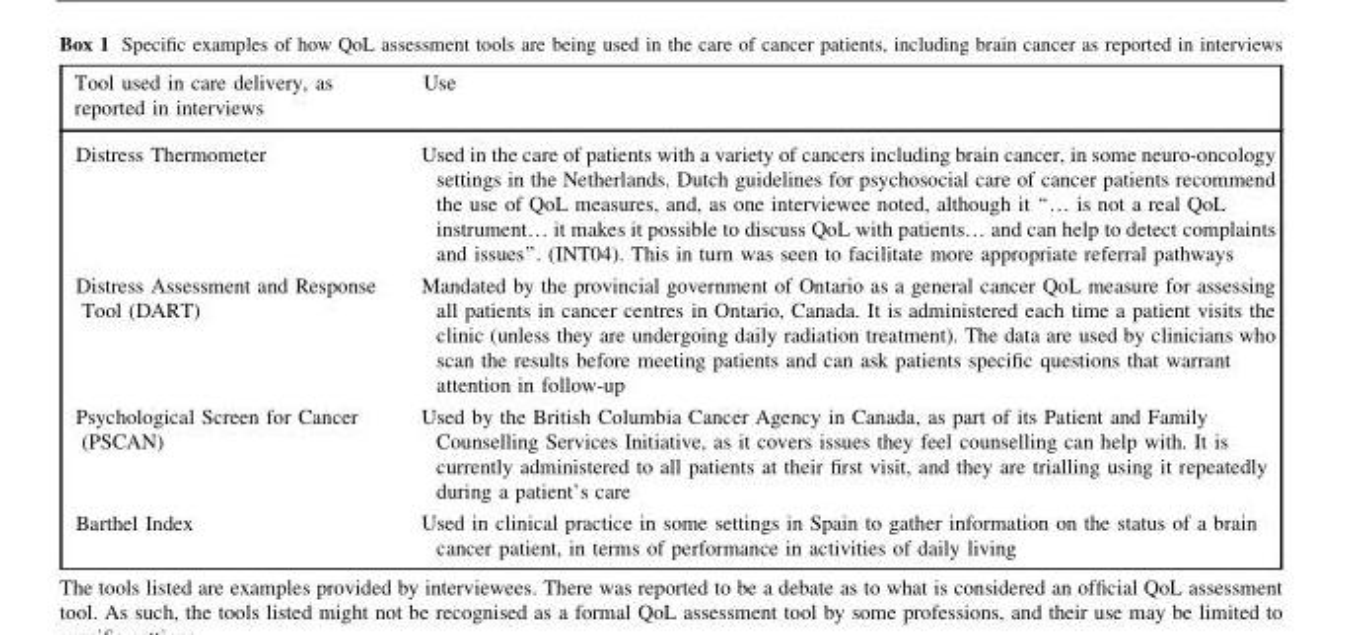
<table><thead><tr><td>Tool used in care delivery, as reported in interviews</td><td>Use</td></tr></thead><tbody><tr><td>Distress Thermometer</td><td>Used in the care of patients with a variety of cancers including brain cancer, in some neuro-oncology settings in the Netherlands. Dutch guidelines for psychosocial care of cancer patients recommend the use of QoL measures, and, as one interviewee noted, although it ‘‘… is not a real QoL instrument… it makes it possible to discuss QoL with patients… and can help to detect complaints and issues’’. (INT04). This in turn was seen to facilitate more appropriate referral pathways</td></tr><tr><td>Distress Assessment and Response Tool (DART)</td><td>Mandated by the provincial government of Ontario as a general cancer QoL measure for assessing all patients in cancer centres in Ontario, Canada. It is administered each time a patient visits the clinic (unless they are undergoing daily radiation treatment). The data are used by clinicians who scan the results before meeting patients and can ask patients specific questions that warrant attention in follow-up</td></tr><tr><td>Psychological Screen for Cancer (PSCAN)</td><td>Used by the British Columbia Cancer Agency in Canada, as part of its Patient and Family Counselling Services Initiative, as it covers issues they feel counselling can help with. It is currently administered to all patients at their first visit, and they are trialling using it repeatedly during a patient’s care</td></tr><tr><td>Barthel Index</td><td>Used in clinical practice in some settings in Spain to gather information on the status of a brain cancer patient, in terms of performance in activities of daily living</td></tr></tbody></table>